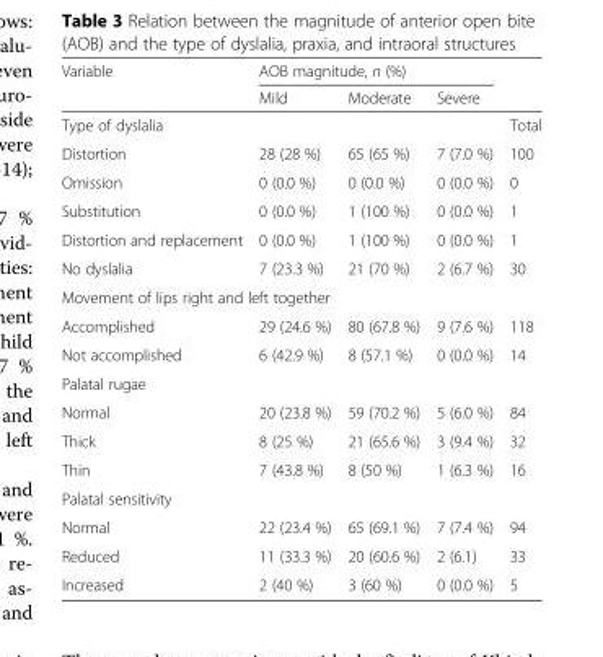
<table><thead><tr><td rowspan="2">Variable</td><td colspan="3">AOB magnitude, n (%)</td><td rowspan="2"></td></tr><tr><td>Mild</td><td>Moderate</td><td>Severe</td></tr></thead><tbody><tr><td>Type of dyslalia</td><td></td><td></td><td></td><td>Total</td></tr><tr><td>Distortion</td><td>28 (28 %)</td><td>65 (65 %)</td><td>7 (7.0 %)</td><td>100</td></tr><tr><td>Omission</td><td>0 (0.0 %)</td><td>0 (0.0 %)</td><td>0 (0.0 %)</td><td>0</td></tr><tr><td>Substitution</td><td>0 (0.0 %)</td><td>1 (100 %)</td><td>0 (0.0 %)</td><td>1</td></tr><tr><td>Distortion and replacement</td><td>0 (0.0 %)</td><td>1 (100 %)</td><td>0 (0.0 %)</td><td>1</td></tr><tr><td>No dyslalia</td><td>7 (23.3 %)</td><td>21 (70 %)</td><td>2 (6.7 %)</td><td>30</td></tr><tr><td colspan="5">Movement of lips right and left together</td></tr><tr><td>Accomplished</td><td>29 (24.6 %)</td><td>80 (67.8 %)</td><td>9 (7.6 %)</td><td>118</td></tr><tr><td>Not accomplished</td><td>6 (42.9 %)</td><td>8 (57.1 %)</td><td>0 (0.0 %)</td><td>14</td></tr><tr><td colspan="5">Palatal rugae</td></tr><tr><td>Normal</td><td>20 (23.8 %)</td><td>59 (70.2 %)</td><td>5 (6.0 %)</td><td>84</td></tr><tr><td>Thick</td><td>8 (25 %)</td><td>21 (65.6 %)</td><td>3 (9.4 %)</td><td>32</td></tr><tr><td>Thin</td><td>7 (43.8 %)</td><td>8 (50 %)</td><td>1 (6.3 %)</td><td>16</td></tr><tr><td colspan="5">Palatal sensitivity</td></tr><tr><td>Normal</td><td>22 (23.4 %)</td><td>65 (69.1 %)</td><td>7 (7.4 %)</td><td>94</td></tr><tr><td>Reduced</td><td>11 (33.3 %)</td><td>20 (60.6 %)</td><td>2 (6.1)</td><td>33</td></tr><tr><td>Increased</td><td>2 (40 %)</td><td>3 (60 %)</td><td>0 (0.0 %)</td><td>5</td></tr></tbody></table>